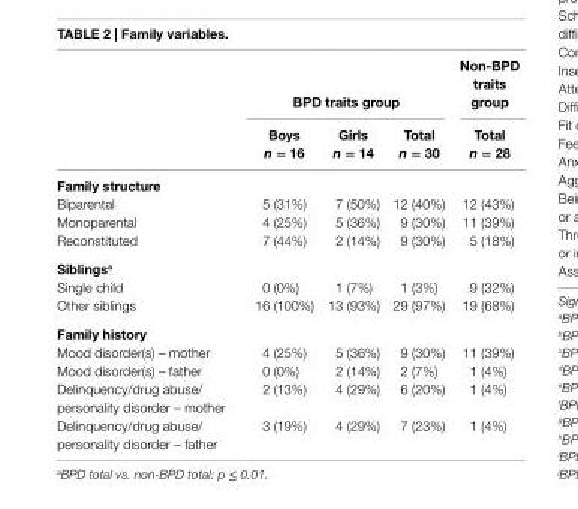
<table><thead><tr><td rowspan="2"></td><td colspan="3">BPD traits group</td><td rowspan="2">non-BPD traits group Total n = 28</td></tr><tr><td>Boys n = 16</td><td>girls n = 14</td><td>Total n = 30</td></tr></thead><tbody><tr><td colspan="5">Family structure</td></tr><tr><td>Biparental</td><td>5 (31%)</td><td>7 (50%)</td><td>12 (40%)</td><td>12 (43%)</td></tr><tr><td>Monoparental</td><td>4 (25%)</td><td>5 (36%)</td><td>9 (30%)</td><td>11 (39%)</td></tr><tr><td>Reconstituted</td><td>7 (44%)</td><td>2 (14%)</td><td>9 (30%)</td><td>5 (18%)</td></tr><tr><td colspan="5">siblings<sup>a</sup></td></tr><tr><td>Single child</td><td>0 (0%)</td><td>1 (7%)</td><td>1 (3%)</td><td>9 (32%)</td></tr><tr><td>Other siblings</td><td>16 (100%)</td><td>13 (93%)</td><td>29 (97%)</td><td>19 (68%)</td></tr><tr><td colspan="5">Family history</td></tr><tr><td>Mood disorder(s) – mother</td><td>4 (25%)</td><td>5 (36%)</td><td>9 (30%)</td><td>11 (39%)</td></tr><tr><td>Mood disorder(s) – father</td><td>0 (0%)</td><td>2 (14%)</td><td>2 (7%)</td><td>1 (4%)</td></tr><tr><td>Delinquency/drug abuse/ personality disorder – mother</td><td>2 (13%)</td><td>4 (29%)</td><td>6 (20%)</td><td>1 (4%)</td></tr><tr><td>Delinquency/drug abuse/ personality disorder – father</td><td>3 (19%)</td><td>4 (29%)</td><td>7 (23%)</td><td>1 (4%)</td></tr></tbody></table>